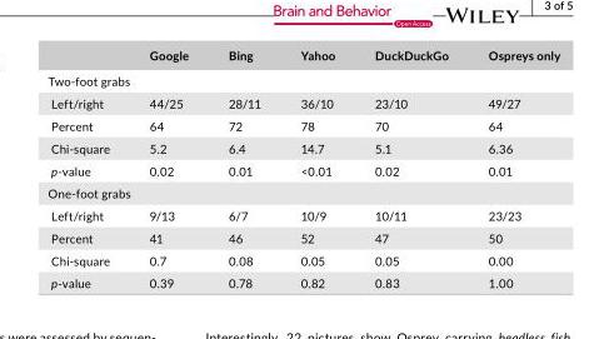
<table><thead><tr><td></td><td>Google</td><td>Bing</td><td>Yahoo</td><td>DuckDuckGo</td><td>Ospreys only</td></tr></thead><tbody><tr><td colspan="6">Two‐foot grabs</td></tr><tr><td>Left/right</td><td>44/25</td><td>28/11</td><td>36/10</td><td>23/10</td><td>49/27</td></tr><tr><td>Percent</td><td>64</td><td>72</td><td>78</td><td>70</td><td>64</td></tr><tr><td>Chi‐square</td><td>5.2</td><td>6.4</td><td>14.7</td><td>5.1</td><td>6.36</td></tr><tr><td>p‐value</td><td>0.02</td><td>0.01</td><td>&lt;0.01</td><td>0.02</td><td>0.01</td></tr><tr><td colspan="6">One‐foot grabs</td></tr><tr><td>Left/right</td><td>9/13</td><td>6/7</td><td>10/9</td><td>10/11</td><td>23/23</td></tr><tr><td>Percent</td><td>41</td><td>46</td><td>52</td><td>47</td><td>50</td></tr><tr><td>Chi‐square</td><td>0.7</td><td>0.08</td><td>0.05</td><td>0.05</td><td>0.00</td></tr><tr><td>p‐value</td><td>0.39</td><td>0.78</td><td>0.82</td><td>0.83</td><td>1.00</td></tr></tbody></table>